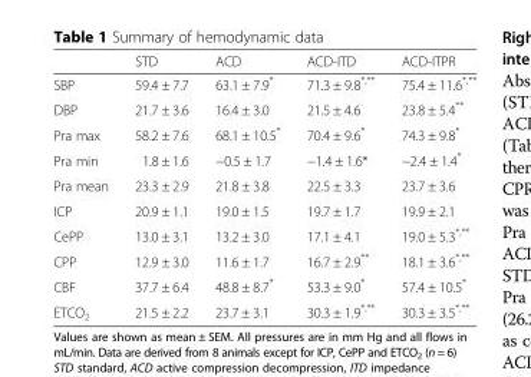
<table><thead><tr><td></td><td>STD</td><td>ACD</td><td>ACD-ITD</td><td>ACD-ITPR</td></tr></thead><tbody><tr><td>SBP</td><td>59.4 ± 7.7</td><td>63.1 ± 7.9*</td><td>71.3 ± 9.8<sup>*,**</sup></td><td>75.4 ± 11.6<sup>*,**</sup></td></tr><tr><td>DBP</td><td>21.7 ± 3.6</td><td>16.4 ± 3.0</td><td>21.5 ± 4.6</td><td>23.8 ± 5.4**</td></tr><tr><td>Pra max</td><td>58.2 ± 7.6</td><td>68.1 ± 10.5*</td><td>70.4 ± 9.6*</td><td>74.3 ± 9.8*</td></tr><tr><td>Pra min</td><td>1.8 ± 1.6</td><td>−0.5 ± 1.7</td><td>−1.4 ± 1.6*</td><td>−2.4 ± 1.4*</td></tr><tr><td>Pra mean</td><td>23.3 ± 2.9</td><td>21.8 ± 3.8</td><td>22.5 ± 3.3</td><td>23.7 ± 3.6</td></tr><tr><td>ICP</td><td>20.9 ± 1.1</td><td>19.0 ± 1.5</td><td>19.7 ± 1.7</td><td>19.9 ± 2.1</td></tr><tr><td>CePP</td><td>13.0 ± 3.1</td><td>13.2 ± 3.0</td><td>17.1 ± 4.1</td><td>19.0 ± 5.3<sup>*,**</sup></td></tr><tr><td>CPP</td><td>12.9 ± 3.0</td><td>11.6 ± 1.7</td><td>16.7 ± 2.9**</td><td>18.1 ± 3.6<sup>*,**</sup></td></tr><tr><td>CBF</td><td>37.7 ± 6.4</td><td>48.8 ± 8.7*</td><td>53.3 ± 9.0*</td><td>57.4 ± 10.5*</td></tr><tr><td>ETCO<sub>2</sub></td><td>21.5 ± 2.2</td><td>23.7 ± 3.1</td><td>30.3 ± 1.9<sup>*,**</sup></td><td>30.3 ± 3.5<sup>*,**</sup></td></tr></tbody></table>